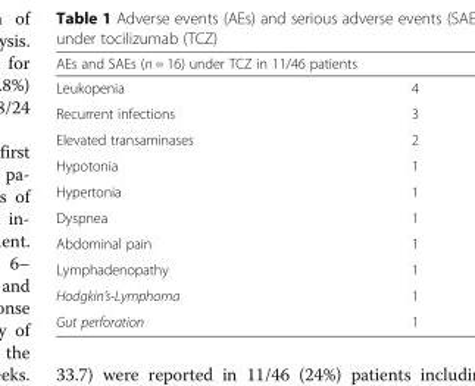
<table><thead><tr><td colspan="2">AEs and SAEs (n = 16) under TCZ in 11/46 patients</td></tr><tr><td>Leukopenia</td><td>4</td></tr></thead><tbody><tr><td>Recurrent infections</td><td>3</td></tr><tr><td>Elevated transaminases</td><td>2</td></tr><tr><td>Hypotonia</td><td>1</td></tr><tr><td>Hypertonia</td><td>1</td></tr><tr><td>Dyspnea</td><td>1</td></tr><tr><td>Abdominal pain</td><td>1</td></tr><tr><td>Lymphadenopathy</td><td>1</td></tr><tr><td>Hodgkin’s-Lymphoma</td><td>1</td></tr><tr><td>Gut perforation</td><td>1</td></tr></tbody></table>